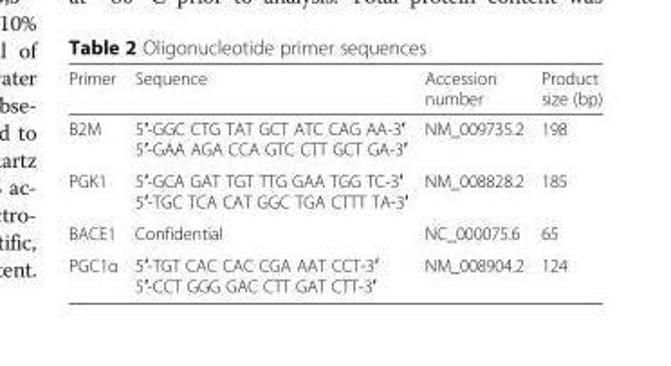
<table><thead><tr><td>Primer</td><td>Sequence</td><td>Accession number</td><td>Product size (bp)</td></tr></thead><tbody><tr><td>B2M</td><td>5′-GGC CTG TAT GCT ATC CAG AA-3′ 5′-GAA AGA CCA GTC CTT GCT GA-3′</td><td>NM_009735.2</td><td>198</td></tr><tr><td>PGK1</td><td>5′-GCA GAT TGT TTG GAA TGG TC-3′ 5′-TGC TCA CAT GGC TGA CTTT TA-3′</td><td>NM_008828.2</td><td>185</td></tr><tr><td>BACE1</td><td>Confidential</td><td>NC_000075.6</td><td>65</td></tr><tr><td>PGC1α</td><td>5′-TGT CAC CAC CGA AAT CCT-3′ 5′-CCT GGG GAC CTT GAT CTT-3′</td><td>NM_008904.2</td><td>124</td></tr></tbody></table>